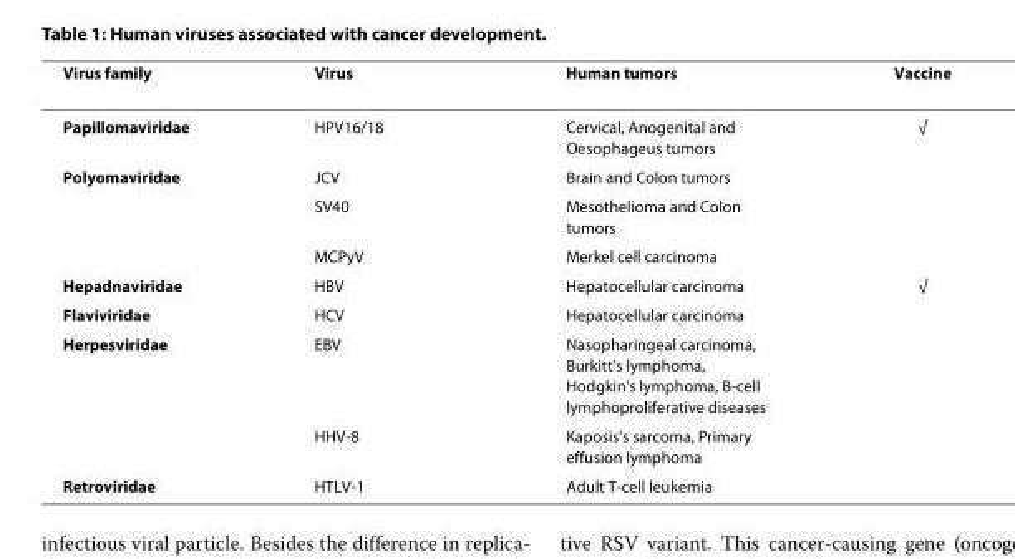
<table><thead><tr><td>Virus family</td><td>Virus</td><td>Human tumors</td><td>Vaccine</td></tr></thead><tbody><tr><td>Papillomaviridae</td><td>HPV16/18</td><td>Cervical, Anogenital and Oesophageus tumors</td><td>√</td></tr><tr><td rowspan="3">Polyomaviridae</td><td>JCV</td><td>Brain and Colon tumors</td><td></td></tr><tr><td>SV40</td><td>Mesothelioma and Colon tumors</td><td></td></tr><tr><td>MCPyV</td><td>Merkel cell carcinoma</td><td></td></tr><tr><td>Hepadnaviridae</td><td>HBV</td><td>Hepatocellular carcinoma</td><td>√</td></tr><tr><td>Flaviviridae</td><td>HCV</td><td>Hepatocellular carcinoma</td><td></td></tr><tr><td rowspan="2">Herpesviridae</td><td>EBV</td><td>Nasopharingeal carcinoma, Burkitt&#x27;s lymphoma, Hodgkin&#x27;s lymphoma, B-cell lymphoproliferative diseases</td><td></td></tr><tr><td>HHV-8</td><td>Kaposis&#x27;s sarcoma, Primary effusion lymphoma</td><td></td></tr><tr><td>Retroviridae</td><td>HTLV-1</td><td>Adult T-cell leukemia</td><td></td></tr></tbody></table>